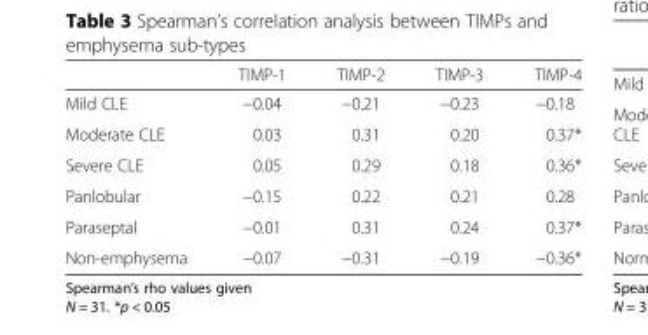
<table><thead><tr><td></td><td>TIMP-1</td><td>TIMP-2</td><td>TIMP-3</td><td>TIMP-4</td></tr></thead><tbody><tr><td>Mild CLE</td><td>−0.04</td><td>−0.21</td><td>−0.23</td><td>−0.18</td></tr><tr><td>Moderate CLE</td><td>0.03</td><td>0.31</td><td>0.20</td><td>0.37*</td></tr><tr><td>Severe CLE</td><td>0.05</td><td>0.29</td><td>0.18</td><td>0.36*</td></tr><tr><td>Panlobular</td><td>−0.15</td><td>0.22</td><td>0.21</td><td>0.28</td></tr><tr><td>Paraseptal</td><td>−0.01</td><td>0.31</td><td>0.24</td><td>0.37*</td></tr><tr><td>Non-emphysema</td><td>−0.07</td><td>−0.31</td><td>−0.19</td><td>−0.36*</td></tr></tbody></table>